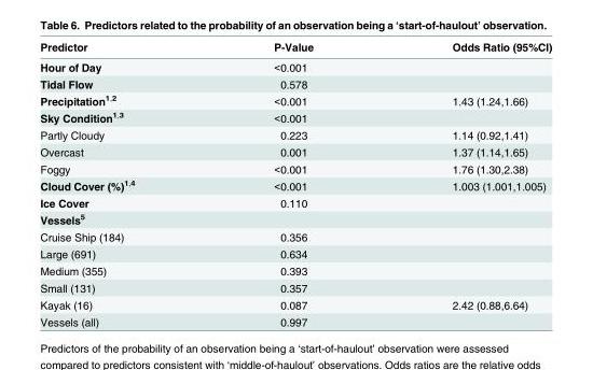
<table><thead><tr><td>Predictor</td><td>P-Value</td><td>Odds Ratio (95%CI)</td></tr></thead><tbody><tr><td>Hour of Day</td><td>&lt;0.001</td><td></td></tr><tr><td>Tidal Flow</td><td>0.578</td><td></td></tr><tr><td>Precipitation<sup>1,2</sup></td><td>&lt;0.001</td><td>1.43 (1.24,1.66)</td></tr><tr><td>Sky Condition<sup>1,3</sup></td><td>&lt;0.001</td><td></td></tr><tr><td>Partly Cloudy</td><td>0.223</td><td>1.14 (0.92,1.41)</td></tr><tr><td>Overcast</td><td>0.001</td><td>1.37 (1.14,1.65)</td></tr><tr><td>Foggy</td><td>&lt;0.001</td><td>1.76 (1.30,2.38)</td></tr><tr><td>Cloud Cover (%)<sup>1,4</sup></td><td>&lt;0.001</td><td>1.003 (1.001,1.005)</td></tr><tr><td>Ice Cover</td><td>0.110</td><td></td></tr><tr><td colspan="3">Vessels<sup>5</sup></td></tr><tr><td>Cruise Ship (184)</td><td>0.356</td><td></td></tr><tr><td>Large (691)</td><td>0.634</td><td></td></tr><tr><td>Medium (355)</td><td>0.393</td><td></td></tr><tr><td>Small (131)</td><td>0.357</td><td></td></tr><tr><td>Kayak (16)</td><td>0.087</td><td>2.42 (0.88,6.64)</td></tr><tr><td>Vessels (all)</td><td>0.997</td><td></td></tr></tbody></table>